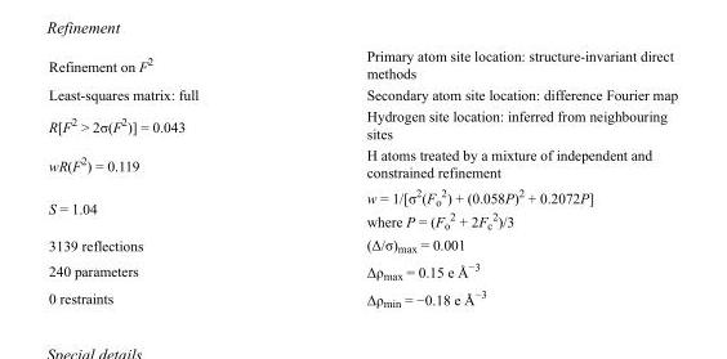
<table><tbody><tr><td>Refinement on F<sup>2</sup></td><td>Primary atom site location: structure-invariant direct methods</td></tr><tr><td>Least-squares matrix: full</td><td>Secondary atom site location: difference Fourier map</td></tr><tr><td>R[F<sup>2</sup> &gt; 2σ(F<sup>2</sup>)] = 0.043</td><td>Hydrogen site location: inferred from neighbouring sites</td></tr><tr><td>wR(F<sup>2</sup>) = 0.119</td><td>H atoms treated by a mixture of independent and constrained refinement</td></tr><tr><td>S = 1.04</td><td>w = 1/[σ<sup>2</sup>(F<sub>o</sub> <sup>2</sup>) + (0.058P)<sup>2</sup> + 0.2072P] where P = (F<sub>o</sub> <sup>2</sup> + 2F<sub>c</sub> <sup>2</sup>)/3</td></tr><tr><td>3139 reflections</td><td>(Δ/σ)<sub>max</sub> = 0.001</td></tr><tr><td>240 parameters</td><td>Δρ<sub>max</sub> = 0.15 e Å<sup>−3</sup></td></tr><tr><td>0 restraints</td><td>Δρmin = −0.18 e Å−3</td></tr></tbody></table>